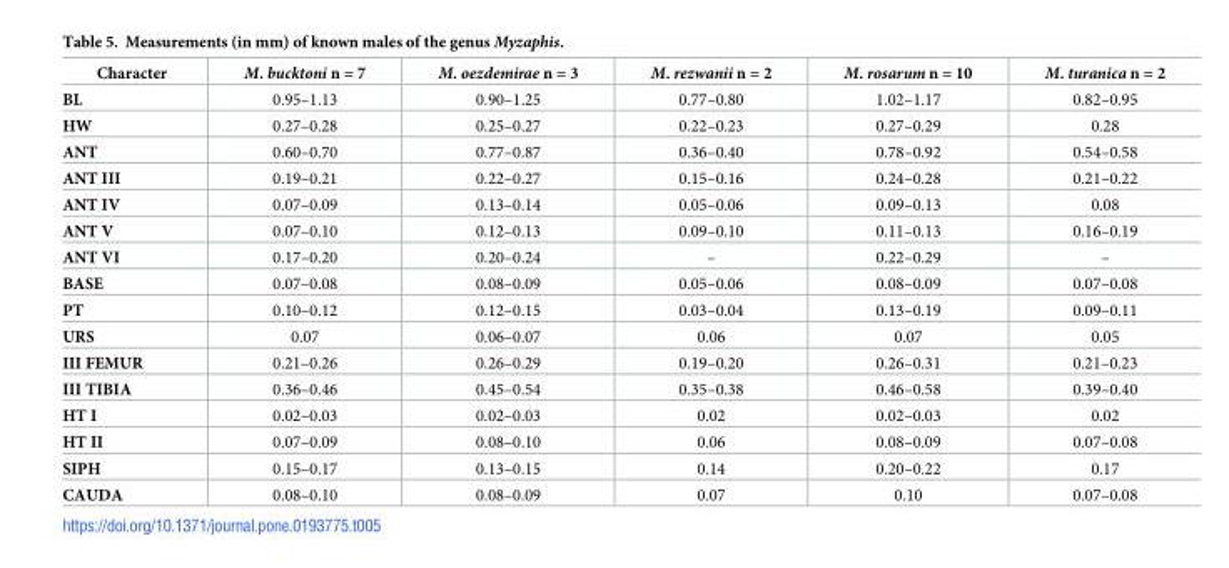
<table><thead><tr><td>Character</td><td>M. bucktoni n = 7</td><td>M. oezdemirae n = 3</td><td>M. rezwanii n = 2</td><td>M. rosarum n = 10</td><td>M. turanica n = 2</td></tr></thead><tbody><tr><td>BL</td><td>0.95–1.13</td><td>0.90–1.25</td><td>0.77–0.80</td><td>1.02–1.17</td><td>0.82–0.95</td></tr><tr><td>HW</td><td>0.27–0.28</td><td>0.25–0.27</td><td>0.22–0.23</td><td>0.27–0.29</td><td>0.28</td></tr><tr><td>ANT</td><td>0.60–0.70</td><td>0.77–0.87</td><td>0.36–0.40</td><td>0.78–0.92</td><td>0.54–0.58</td></tr><tr><td>ANT III</td><td>0.19–0.21</td><td>0.22–0.27</td><td>0.15–0.16</td><td>0.24–0.28</td><td>0.21–0.22</td></tr><tr><td>ANT IV</td><td>0.07–0.09</td><td>0.13–0.14</td><td>0.05–0.06</td><td>0.09–0.13</td><td>0.08</td></tr><tr><td>ANT V</td><td>0.07–0.10</td><td>0.12–0.13</td><td>0.09–0.10</td><td>0.11–0.13</td><td>0.16–0.19</td></tr><tr><td>ANT VI</td><td>0.17–0.20</td><td>0.20–0.24</td><td>–</td><td>0.22–0.29</td><td>–</td></tr><tr><td>BASE</td><td>0.07–0.08</td><td>0.08–0.09</td><td>0.05–0.06</td><td>0.08–0.09</td><td>0.07–0.08</td></tr><tr><td>PT</td><td>0.10–0.12</td><td>0.12–0.15</td><td>0.03–0.04</td><td>0.13–0.19</td><td>0.09–0.11</td></tr><tr><td>URS</td><td>0.07</td><td>0.06–0.07</td><td>0.06</td><td>0.07</td><td>0.05</td></tr><tr><td>III FEMUR</td><td>0.21–0.26</td><td>0.26–0.29</td><td>0.19–0.20</td><td>0.26–0.31</td><td>0.21–0.23</td></tr><tr><td>III TIBIA</td><td>0.36–0.46</td><td>0.45–0.54</td><td>0.35–0.38</td><td>0.46–0.58</td><td>0.39–0.40</td></tr><tr><td>HT I</td><td>0.02–0.03</td><td>0.02–0.03</td><td>0.02</td><td>0.02–0.03</td><td>0.02</td></tr><tr><td>HT II</td><td>0.07–0.09</td><td>0.08–0.10</td><td>0.06</td><td>0.08–0.09</td><td>0.07–0.08</td></tr><tr><td>SIPH</td><td>0.15–0.17</td><td>0.13–0.15</td><td>0.14</td><td>0.20–0.22</td><td>0.17</td></tr><tr><td>CAUDA</td><td>0.08–0.10</td><td>0.08–0.09</td><td>0.07</td><td>0.10</td><td>0.07–0.08</td></tr></tbody></table>